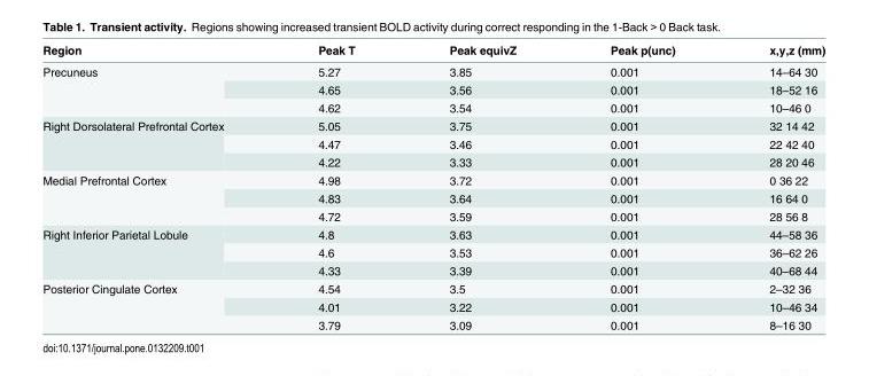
<table><thead><tr><td>Region</td><td>Peak T</td><td>Peak equivZ</td><td>Peak p(unc)</td><td>x,y,z (mm)</td></tr></thead><tbody><tr><td rowspan="3">Precuneus</td><td>5.27</td><td>3.85</td><td>0.001</td><td>14–64 30</td></tr><tr><td>4.65</td><td>3.56</td><td>0.001</td><td>18–52 16</td></tr><tr><td>4.62</td><td>3.54</td><td>0.001</td><td>10–46 0</td></tr><tr><td rowspan="3">Right Dorsolateral Prefrontal Cortex</td><td>5.05</td><td>3.75</td><td>0.001</td><td>32 14 42</td></tr><tr><td>4.47</td><td>3.46</td><td>0.001</td><td>22 42 40</td></tr><tr><td>4.22</td><td>3.33</td><td>0.001</td><td>28 20 46</td></tr><tr><td rowspan="3">Medial Prefrontal Cortex</td><td>4.98</td><td>3.72</td><td>0.001</td><td>0 36 22</td></tr><tr><td>4.83</td><td>3.64</td><td>0.001</td><td>16 64 0</td></tr><tr><td>4.72</td><td>3.59</td><td>0.001</td><td>28 56 8</td></tr><tr><td rowspan="3">Right Inferior Parietal Lobule</td><td>4.8</td><td>3.63</td><td>0.001</td><td>44–58 36</td></tr><tr><td>4.6</td><td>3.53</td><td>0.001</td><td>36–62 26</td></tr><tr><td>4.33</td><td>3.39</td><td>0.001</td><td>40–68 44</td></tr><tr><td rowspan="3">Posterior Cingulate Cortex</td><td>4.54</td><td>3.5</td><td>0.001</td><td>2–32 36</td></tr><tr><td>4.01</td><td>3.22</td><td>0.001</td><td>10–46 34</td></tr><tr><td>3.79</td><td>3.09</td><td>0.001</td><td>8–16 30</td></tr></tbody></table>